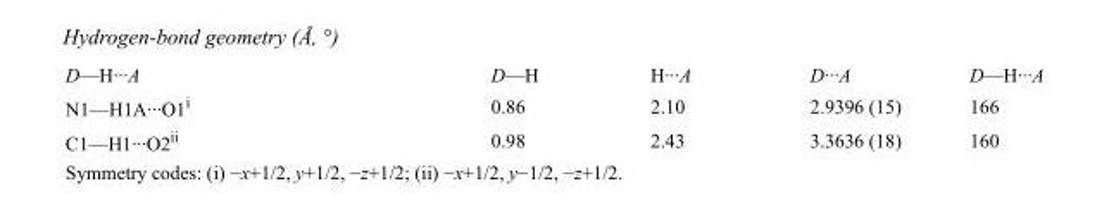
<table><tbody><tr><td>D—H···A</td><td>D—H</td><td>H···A</td><td>D···A</td><td>D—H···A</td></tr><tr><td>N1—H1A···O1<sup>i</sup></td><td>0.86</td><td>2.10</td><td>2.9396 (15)</td><td>166</td></tr><tr><td>C1—H1···O2<sup>ii</sup></td><td>0.98</td><td>2.43</td><td>3.3636 (18)</td><td>160</td></tr></tbody></table>